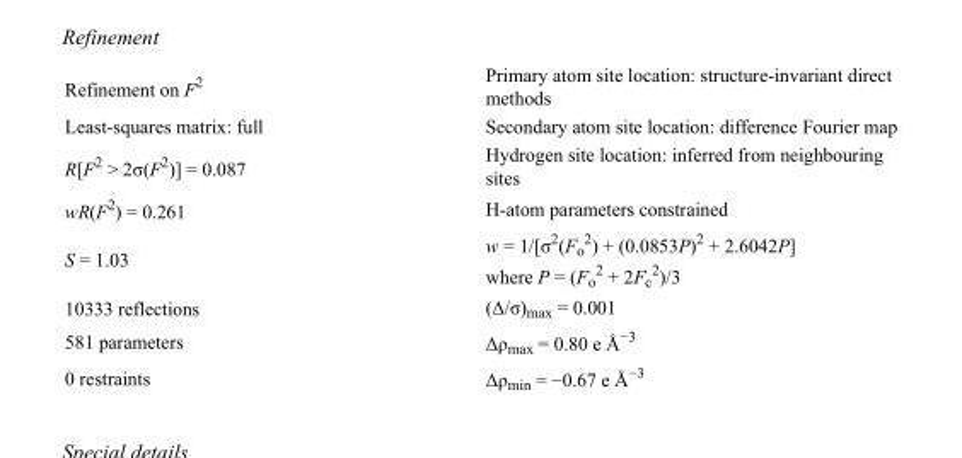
<table><tbody><tr><td>Refinement on F<sup>2</sup></td><td>Primary atom site location: structure-invariant direct methods</td></tr><tr><td>Least-squares matrix: full</td><td>Secondary atom site location: difference Fourier map</td></tr><tr><td>R[F<sup>2</sup> &gt; 2σ(F<sup>2</sup>)] = 0.087</td><td>Hydrogen site location: inferred from neighbouring sites</td></tr><tr><td>wR(F<sup>2</sup>) = 0.261</td><td>H-atom parameters constrained</td></tr><tr><td>S = 1.03</td><td>w = 1/[σ<sup>2</sup>(F<sub>o</sub> <sup>2</sup>) + (0.0853P)<sup>2</sup> + 2.6042P] where P = (F<sub>o</sub> <sup>2</sup> + 2F<sub>c</sub> <sup>2</sup>)/3</td></tr><tr><td>10333 reflections</td><td>(Δ/σ)<sub>max</sub> = 0.001</td></tr><tr><td>581 parameters</td><td>Δρ<sub>max</sub> = 0.80 e Å<sup>−3</sup></td></tr><tr><td>0 restraints</td><td>Δρ<sub>min</sub> = −0.67 e Å<sup>−3</sup></td></tr></tbody></table>